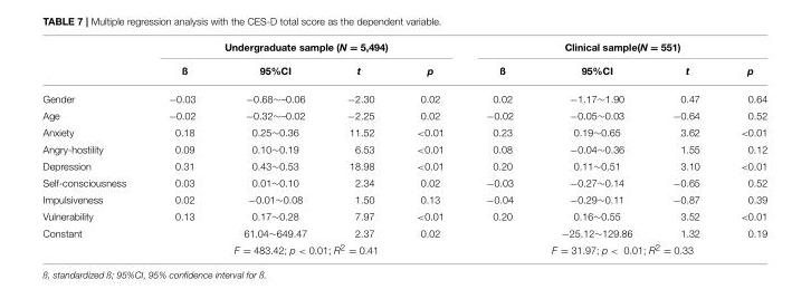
<table><thead><tr><td rowspan="2"></td><td colspan="4">Undergraduate sample (N = 5,494)</td><td colspan="4">Clinical sample(N = 551)</td></tr><tr><td>ß</td><td>95%CI</td><td>t</td><td>p</td><td>ß</td><td>95%CI</td><td>t</td><td>p</td></tr></thead><tbody><tr><td>Gender</td><td>−0.03</td><td>−0.68∼–0.06</td><td>−2.30</td><td>0.02</td><td>0.02</td><td>−1.17∼1.90</td><td>0.47</td><td>0.64</td></tr><tr><td>Age</td><td>−0.02</td><td>−0.32∼–0.02</td><td>−2.25</td><td>0.02</td><td>−0.02</td><td>−0.05∼0.03</td><td>−0.64</td><td>0.52</td></tr><tr><td>Anxiety</td><td>0.18</td><td>0.25∼0.36</td><td>11.52</td><td>&lt;0.01</td><td>0.23</td><td>0.19∼0.65</td><td>3.62</td><td>&lt;0.01</td></tr><tr><td>Angry-hostility</td><td>0.09</td><td>0.10∼0.19</td><td>6.53</td><td>&lt;0.01</td><td>0.08</td><td>−0.04∼0.36</td><td>1.55</td><td>0.12</td></tr><tr><td>Depression</td><td>0.31</td><td>0.43∼0.53</td><td>18.98</td><td>&lt;0.01</td><td>0.20</td><td>0.11∼0.51</td><td>3.10</td><td>&lt;0.01</td></tr><tr><td>Self-consciousness</td><td>0.03</td><td>0.01∼0.10</td><td>2.34</td><td>0.02</td><td>−0.03</td><td>−0.27∼0.14</td><td>−0.65</td><td>0.52</td></tr><tr><td>Impulsiveness</td><td>0.02</td><td>−0.01∼0.08</td><td>1.50</td><td>0.13</td><td>−0.04</td><td>−0.29∼0.11</td><td>−0.87</td><td>0.39</td></tr><tr><td>Vulnerability</td><td>0.13</td><td>0.17∼0.28</td><td>7.97</td><td>&lt;0.01</td><td>0.20</td><td>0.16∼0.55</td><td>3.52</td><td>&lt;0.01</td></tr><tr><td rowspan="2">Constant</td><td></td><td>61.04∼649.47</td><td>2.37</td><td>0.02</td><td></td><td>−25.12∼129.86</td><td>1.32</td><td>0.19</td></tr><tr><td colspan="4">F = 483.42; p &lt; 0.01; R<sup>2</sup> = 0.41</td><td colspan="4">F = 31.97; p &lt; 0.01; R<sup>2</sup> = 0.33</td></tr></tbody></table>